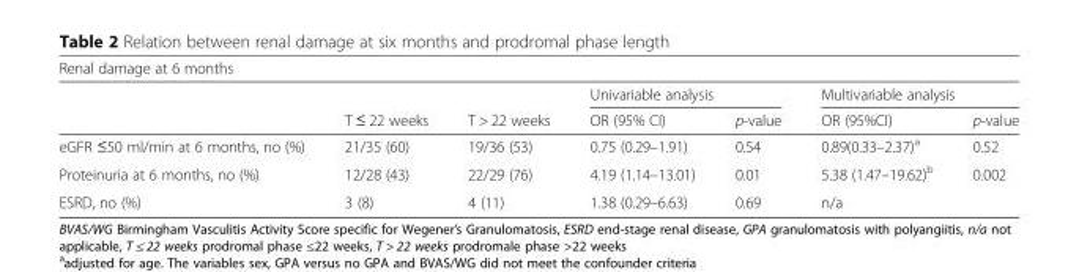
<table><thead><tr><td colspan="7">Renal damage at 6 months</td></tr><tr><td rowspan="2"></td><td rowspan="2">T ≤ 22 weeks</td><td rowspan="2">T &gt; 22 weeks</td><td colspan="2">Univariable analysis</td><td colspan="2">Multivariable analysis</td></tr><tr><td>OR (95% CI)</td><td>p-value</td><td>OR (95%CI)</td><td>p-value</td></tr></thead><tbody><tr><td>eGFR ≤50 ml/min at 6 months, no (%)</td><td>21/35 (60)</td><td>19/36 (53)</td><td>0.75 (0.29–1.91)</td><td>0.54</td><td>0.89(0.33–2.37)<sup>a</sup></td><td>0.52</td></tr><tr><td>Proteinuria at 6 months, no (%)</td><td>12/28 (43)</td><td>22/29 (76)</td><td>4.19 (1.14–13.01)</td><td>0.01</td><td>5.38 (1.47–19.62)<sup>b</sup></td><td>0.002</td></tr><tr><td>ESRD, no (%)</td><td>3 (8)</td><td>4 (11)</td><td>1.38 (0.29–6.63)</td><td>0.69</td><td>n/a</td><td></td></tr></tbody></table>